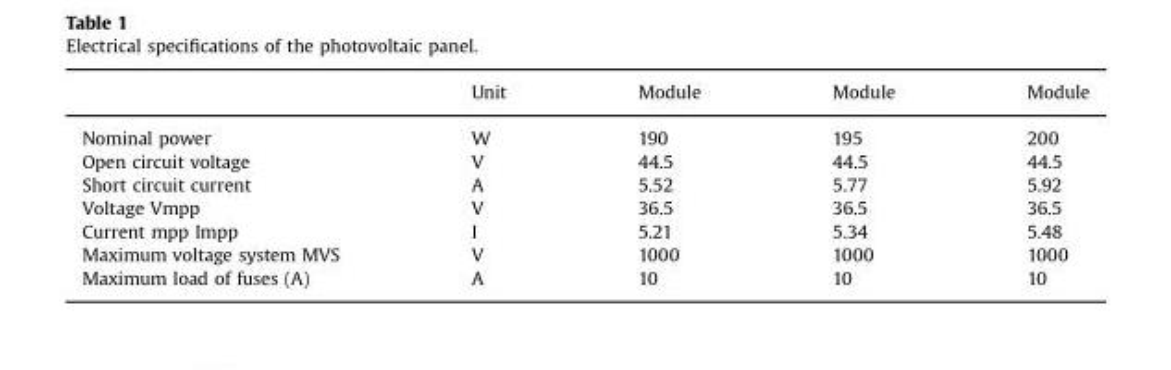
<table><thead><tr><td></td><td>Unit</td><td>Module</td><td>Module</td><td>Module</td></tr></thead><tbody><tr><td>Nominal power</td><td>W</td><td>190</td><td>195</td><td>200</td></tr><tr><td>Open circuit voltage</td><td>V</td><td>44.5</td><td>44.5</td><td>44.5</td></tr><tr><td>Short circuit current</td><td>A</td><td>5.52</td><td>5.77</td><td>5.92</td></tr><tr><td>Voltage Vmpp</td><td>V</td><td>36.5</td><td>36.5</td><td>36.5</td></tr><tr><td>Current mpp Impp</td><td>I</td><td>5.21</td><td>5.34</td><td>5.48</td></tr><tr><td>Maximum voltage system MVS</td><td>V</td><td>1000</td><td>1000</td><td>1000</td></tr><tr><td>Maximum load of fuses (A)</td><td>A</td><td>10</td><td>10</td><td>10</td></tr></tbody></table>